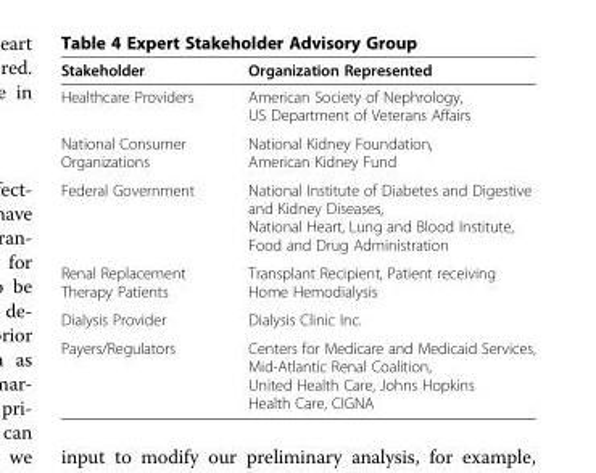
<table><thead><tr><td>Stakeholder</td><td>Organization Represented</td></tr></thead><tbody><tr><td>Healthcare Providers</td><td>American Society of Nephrology, US Department of Veterans Affairs</td></tr><tr><td>National Consumer Organizations</td><td>National Kidney Foundation, American Kidney Fund</td></tr><tr><td>Federal Government</td><td>National Institute of Diabetes and Digestive and Kidney Diseases, National Heart, Lung and Blood Institute, Food and Drug Administration</td></tr><tr><td>Renal Replacement Therapy Patients</td><td>Transplant Recipient, Patient receiving Home Hemodialysis</td></tr><tr><td>Dialysis Provider</td><td>Dialysis Clinic Inc.</td></tr><tr><td>Payers/Regulators</td><td>Centers for Medicare and Medicaid Services, Mid-Atlantic Renal Coalition, United Health Care, Johns Hopkins Health Care, CIGNA</td></tr></tbody></table>